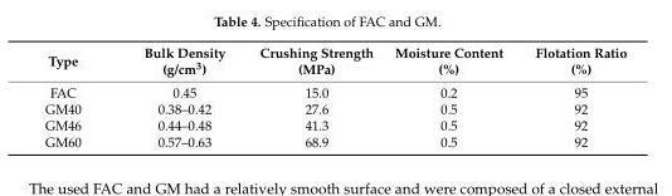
<table><thead><tr><td>Type</td><td>Bulk Density (g/cm<sup>3</sup>)</td><td>Crushing Strength (MPa)</td><td>Moisture Content (%)</td><td>Flotation Ratio (%)</td></tr></thead><tbody><tr><td>FAC</td><td>0.45</td><td>15.0</td><td>0.2</td><td>95</td></tr><tr><td>GM40</td><td>0.38–0.42</td><td>27.6</td><td>0.5</td><td>92</td></tr><tr><td>GM46</td><td>0.44–0.48</td><td>41.3</td><td>0.5</td><td>92</td></tr><tr><td>GM60</td><td>0.57–0.63</td><td>68.9</td><td>0.5</td><td>92</td></tr></tbody></table>